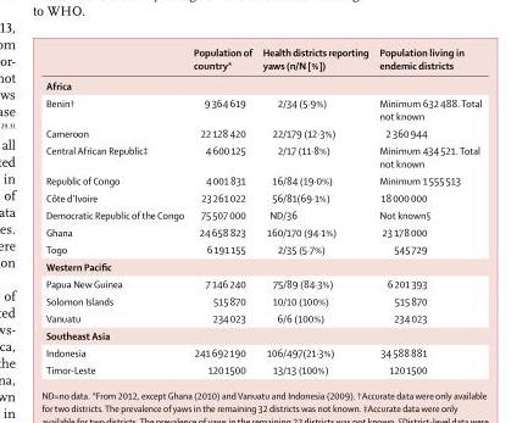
<table><thead><tr><td></td><td>Population of country*</td><td>Health districts reporting yaws (n/N [%])</td><td>Population living in endemic districts</td></tr></thead><tbody><tr><td colspan="4">Africa</td></tr><tr><td>Benin†</td><td>9 364 619</td><td>2/34 (5·9%)</td><td>Minimum 632 488. Total not known</td></tr><tr><td>Cameroon</td><td>22 128 420</td><td>22/179 (12·3%)</td><td>2 360 944</td></tr><tr><td>Central African Republic‡</td><td>4 600 125</td><td>2/17 (11·8%)</td><td>Minimum 434 521. Total not known</td></tr><tr><td>Republic of Congo</td><td>4 001 831</td><td>16/84 (19·0%)</td><td>Minimum 1 555 513</td></tr><tr><td>Côte d’Ivoire</td><td>23 261 022</td><td>56/81(69·1%)</td><td>18 000 000</td></tr><tr><td>Democratic Republic of the Congo</td><td>75 507 000</td><td>ND/36</td><td>Not known§</td></tr><tr><td>Ghana</td><td>24 658 823</td><td>160/170 (94·1%)</td><td>23 178 000</td></tr><tr><td>Togo</td><td>6 191 155</td><td>2/35 (5·7%)</td><td>545 729</td></tr><tr><td colspan="4">Western Pacifi c</td></tr><tr><td>Papua New Guinea</td><td>7 146 240</td><td>75/89 (84·3%)</td><td>6 201 393</td></tr><tr><td>Solomon Islands</td><td>515 870</td><td>10/10 (100%)</td><td>515 870</td></tr><tr><td>Vanuatu</td><td>234 023</td><td>6/6 (100%)</td><td>234 023</td></tr><tr><td colspan="4">Southeast Asia</td></tr><tr><td>Indonesia</td><td>241 692 190</td><td>106/497(21·3%)</td><td>34 588 881</td></tr><tr><td>Timor-Leste</td><td>120 1500</td><td>13/13 (100%)</td><td>120 1500</td></tr></tbody></table>